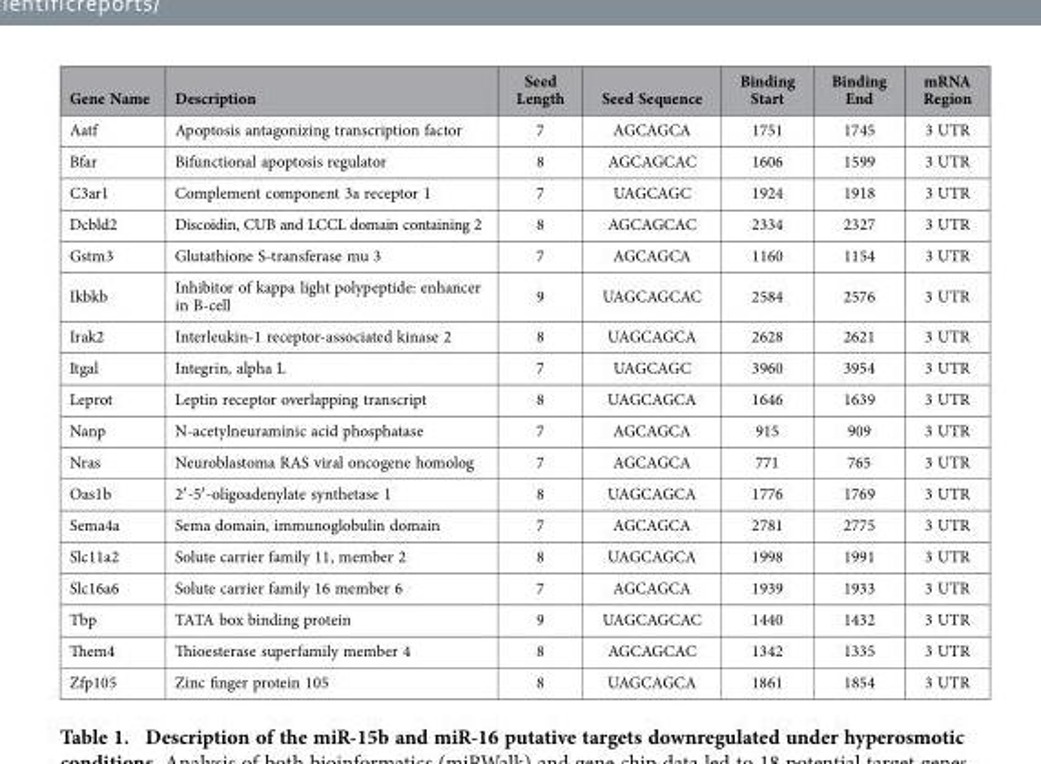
<table><thead><tr><td>Gene Name</td><td>Description</td><td>Seed Length</td><td>Seed Sequence</td><td>Binding Start</td><td>Binding End</td><td>mRNA Region</td></tr></thead><tbody><tr><td>Aatf</td><td>Apoptosis antagonizing transcription factor</td><td>7</td><td>AGCAGCA</td><td>1751</td><td>1745</td><td>3 UTR</td></tr><tr><td>Bfar</td><td>Bifunctional apoptosis regulator</td><td>8</td><td>AGCAGCAC</td><td>1606</td><td>1599</td><td>3 UTR</td></tr><tr><td>C3ar1</td><td>Complement component 3a receptor 1</td><td>7</td><td>UAGCAGC</td><td>1924</td><td>1918</td><td>3 UTR</td></tr><tr><td>Dcbld2</td><td>Discoidin, CUB and LCCL domain containing 2</td><td>8</td><td>AGCAGCAC</td><td>2334</td><td>2327</td><td>3 UTR</td></tr><tr><td>Gstm3</td><td>Glutathione S-transferase mu 3</td><td>7</td><td>AGCAGCA</td><td>1160</td><td>1154</td><td>3 UTR</td></tr><tr><td>Ikbkb</td><td>Inhibitor of kappa light polypeptide: enhancer in B-cell</td><td>9</td><td>UAGCAGCAC</td><td>2584</td><td>2576</td><td>3 UTR</td></tr><tr><td>Irak2</td><td>Interleukin-1 receptor-associated kinase 2</td><td>8</td><td>UAGCAGCA</td><td>2628</td><td>2621</td><td>3 UTR</td></tr><tr><td>Itgal</td><td>Integrin, alpha L</td><td>7</td><td>UAGCAGC</td><td>3960</td><td>3954</td><td>3 UTR</td></tr><tr><td>Leprot</td><td>Leptin receptor overlapping transcript</td><td>8</td><td>UAGCAGCA</td><td>1646</td><td>1639</td><td>3 UTR</td></tr><tr><td>Nanp</td><td>N-acetylneuraminic acid phosphatase</td><td>7</td><td>AGCAGCA</td><td>915</td><td>909</td><td>3 UTR</td></tr><tr><td>Nras</td><td>Neuroblastoma RAS viral oncogene homolog</td><td>7</td><td>AGCAGCA</td><td>771</td><td>765</td><td>3 UTR</td></tr><tr><td>Oas1b</td><td>2′ -5′ -oligoadenylate synthetase 1</td><td>8</td><td>UAGCAGCA</td><td>1776</td><td>1769</td><td>3 UTR</td></tr><tr><td>Sema4a</td><td>Sema domain, immunoglobulin domain</td><td>7</td><td>AGCAGCA</td><td>2781</td><td>2775</td><td>3 UTR</td></tr><tr><td>Slc11a2</td><td>Solute carrier family 11, member 2</td><td>8</td><td>UAGCAGCA</td><td>1998</td><td>1991</td><td>3 UTR</td></tr><tr><td>Slc16a6</td><td>Solute carrier family 16 member 6</td><td>7</td><td>AGCAGCA</td><td>1939</td><td>1933</td><td>3 UTR</td></tr><tr><td>Tbp</td><td>TATA box binding protein</td><td>9</td><td>UAGCAGCAC</td><td>1440</td><td>1432</td><td>3 UTR</td></tr><tr><td>Them4</td><td>Thioesterase superfamily member 4</td><td>8</td><td>AGCAGCAC</td><td>1342</td><td>1335</td><td>3 UTR</td></tr><tr><td>Zfp105</td><td>Zinc finger protein 105</td><td>8</td><td>UAGCAGCA</td><td>1861</td><td>1854</td><td>3 UTR</td></tr></tbody></table>